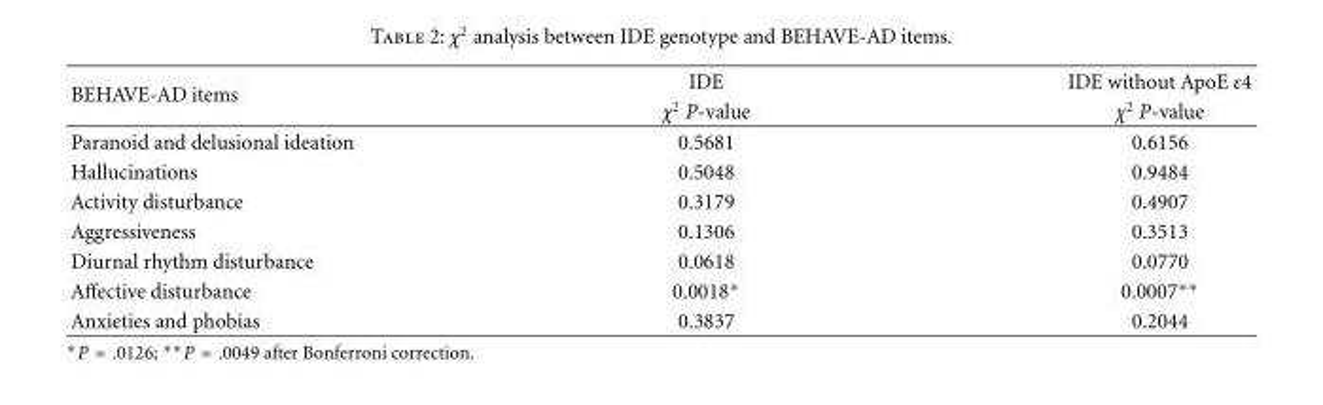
<table><thead><tr><td rowspan="2">BEHAVE-AD items</td><td rowspan="2">IDE χ<sup>2</sup> P-value</td><td rowspan="2">IDE without ApoE ε4 χ<sup>2</sup> P-value</td></tr><tr></tr></thead><tbody><tr><td>Paranoid and delusional ideation</td><td>0.5681</td><td>0.6156</td></tr><tr><td>Hallucinations</td><td>0.5048</td><td>0.9484</td></tr><tr><td>Activity disturbance</td><td>0.3179</td><td>0.4907</td></tr><tr><td>Aggressiveness</td><td>0.1306</td><td>0.3513</td></tr><tr><td>Diurnal rhythm disturbance</td><td>0.0618</td><td>0.0770</td></tr><tr><td>Affective disturbance</td><td>0.0018∗</td><td>0.0007∗∗</td></tr><tr><td>Anxieties and phobias</td><td>0.3837</td><td>0.2044</td></tr></tbody></table>